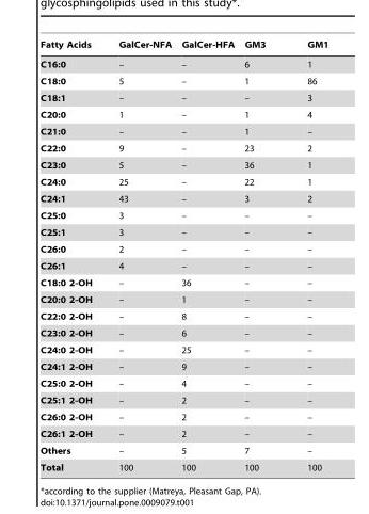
<table><thead><tr><td>Fatty Acids</td><td>GalCer-NFA</td><td>GalCer-HFA</td><td>GM3</td><td>GM1</td></tr></thead><tbody><tr><td>C16:0</td><td>–</td><td>–</td><td>6</td><td>1</td></tr><tr><td>C18:0</td><td>5</td><td>–</td><td>1</td><td>86</td></tr><tr><td>C18:1</td><td>–</td><td>–</td><td>–</td><td>3</td></tr><tr><td>C20:0</td><td>1</td><td>–</td><td>1</td><td>4</td></tr><tr><td>C21:0</td><td>–</td><td>–</td><td>1</td><td>–</td></tr><tr><td>C22:0</td><td>9</td><td>–</td><td>23</td><td>2</td></tr><tr><td>C23:0</td><td>5</td><td>–</td><td>36</td><td>1</td></tr><tr><td>C24:0</td><td>25</td><td>–</td><td>22</td><td>1</td></tr><tr><td>C24:1</td><td>43</td><td>–</td><td>3</td><td>2</td></tr><tr><td>C25:0</td><td>3</td><td>–</td><td>–</td><td>–</td></tr><tr><td>C25:1</td><td>3</td><td>–</td><td>–</td><td>–</td></tr><tr><td>C26:0</td><td>2</td><td>–</td><td>–</td><td>–</td></tr><tr><td>C26:1</td><td>4</td><td>–</td><td>–</td><td>–</td></tr><tr><td>C18:0 2-OH</td><td>–</td><td>36</td><td>–</td><td>–</td></tr><tr><td>C20:0 2-OH</td><td>–</td><td>1</td><td>–</td><td>–</td></tr><tr><td>C22:0 2-OH</td><td>–</td><td>8</td><td>–</td><td>–</td></tr><tr><td>C23:0 2-OH</td><td>–</td><td>6</td><td>–</td><td>–</td></tr><tr><td>C24:0 2-OH</td><td>–</td><td>25</td><td>–</td><td>–</td></tr><tr><td>C24:1 2-OH</td><td>–</td><td>9</td><td>–</td><td>–</td></tr><tr><td>C25:0 2-OH</td><td>–</td><td>4</td><td>–</td><td>–</td></tr><tr><td>C25:1 2-OH</td><td>–</td><td>2</td><td>–</td><td>–</td></tr><tr><td>C26:0 2-OH</td><td>–</td><td>2</td><td>–</td><td>–</td></tr><tr><td>C26:1 2-OH</td><td>–</td><td>2</td><td>–</td><td>–</td></tr><tr><td>Others</td><td>–</td><td>5</td><td>7</td><td>–</td></tr><tr><td>Total</td><td>100</td><td>100</td><td>100</td><td>100</td></tr></tbody></table>